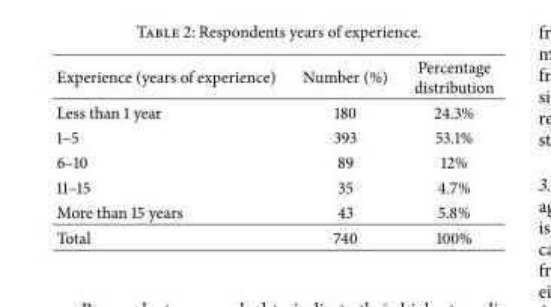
<table><thead><tr><td>Experience (years of experience)</td><td>Number (%)</td><td>Percentage distribution</td></tr></thead><tbody><tr><td>Less than 1 year</td><td>180</td><td>24.3%</td></tr><tr><td>1–5</td><td>393</td><td>53.1%</td></tr><tr><td>6–10</td><td>89</td><td>12%</td></tr><tr><td>11–15</td><td>35</td><td>4.7%</td></tr><tr><td>More than 15 years</td><td>43</td><td>5.8%</td></tr><tr><td>Total</td><td>740</td><td>100%</td></tr></tbody></table>